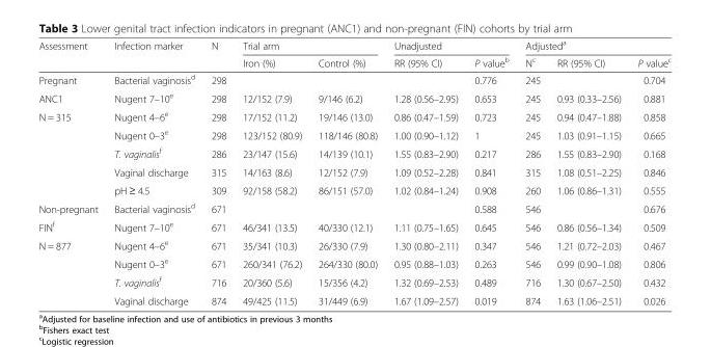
<table><thead><tr><td rowspan="2">Assessment</td><td rowspan="2">Infection marker</td><td rowspan="2">N</td><td colspan="2">Trial arm</td><td colspan="2">Unadjusted</td><td colspan="3">Adjusted<sup>a</sup></td></tr><tr><td>Iron (%)</td><td>Control (%)</td><td>RR (95% CI)</td><td>P value<sup>b</sup></td><td>N<sup>c</sup></td><td>RR (95% CI)</td><td>P value<sup>c</sup></td></tr></thead><tbody><tr><td>Pregnant</td><td>Bacterial vaginosis<sup>d</sup></td><td>298</td><td></td><td></td><td></td><td>0.776</td><td>245</td><td></td><td>0.704</td></tr><tr><td>ANC1</td><td>Nugent 7–10<sup>e</sup></td><td>298</td><td>12/152 (7.9)</td><td>9/146 (6.2)</td><td>1.28 (0.56–2.95)</td><td>0.653</td><td>245</td><td>0.93 (0.33–2.56)</td><td>0.881</td></tr><tr><td rowspan="5">N = 315</td><td>Nugent 4–6<sup>e</sup></td><td>298</td><td>17/152 (11.2)</td><td>19/146 (13.0)</td><td>0.86 (0.47–1.59)</td><td>0.723</td><td>245</td><td>0.94 (0.47–1.88)</td><td>0.858</td></tr><tr><td>Nugent 0–3<sup>e</sup></td><td>298</td><td>123/152 (80.9)</td><td>118/146 (80.8)</td><td>1.00 (0.90–1.12)</td><td>1</td><td>245</td><td>1.03 (0.91–1.15)</td><td>0.665</td></tr><tr><td>T. vaginalis<sup>f</sup></td><td>286</td><td>23/147 (15.6)</td><td>14/139 (10.1)</td><td>1.55 (0.83–2.90)</td><td>0.217</td><td>286</td><td>1.55 (0.83–2.90)</td><td>0.168</td></tr><tr><td>Vaginal discharge</td><td>315</td><td>14/163 (8.6)</td><td>12/152 (7.9)</td><td>1.09 (0.52–2.28)</td><td>0.841</td><td>315</td><td>1.08 (0.51–2.25)</td><td>0.846</td></tr><tr><td>pH ≥ 4.5</td><td>309</td><td>92/158 (58.2)</td><td>86/151 (57.0)</td><td>1.02 (0.84–1.24)</td><td>0.908</td><td>260</td><td>1.06 (0.86–1.31)</td><td>0.555</td></tr><tr><td>Non-pregnant</td><td>Bacterial vaginosis<sup>d</sup></td><td>671</td><td></td><td></td><td></td><td>0.588</td><td>546</td><td></td><td>0.676</td></tr><tr><td>FIN<sup>f</sup></td><td>Nugent 7–10<sup>e</sup></td><td>671</td><td>46/341 (13.5)</td><td>40/330 (12.1)</td><td>1.11 (0.75–1.65)</td><td>0.645</td><td>546</td><td>0.86 (0.56–1.34)</td><td>0.509</td></tr><tr><td rowspan="4">N = 877</td><td>Nugent 4–6<sup>e</sup></td><td>671</td><td>35/341 (10.3)</td><td>26/330 (7.9)</td><td>1.30 (0.80–2.11)</td><td>0.347</td><td>546</td><td>1.21 (0.72–2.03)</td><td>0.467</td></tr><tr><td>Nugent 0–3<sup>e</sup></td><td>671</td><td>260/341 (76.2)</td><td>264/330 (80.0)</td><td>0.95 (0.88–1.03)</td><td>0.263</td><td>546</td><td>0.99 (0.90–1.08)</td><td>0.806</td></tr><tr><td>T. vaginalis<sup>f</sup></td><td>716</td><td>20/360 (5.6)</td><td>15/356 (4.2)</td><td>1.32 (0.69–2.53)</td><td>0.489</td><td>716</td><td>1.30 (0.67–2.50)</td><td>0.432</td></tr><tr><td>Vaginal discharge</td><td>874</td><td>49/425 (11.5)</td><td>31/449 (6.9)</td><td>1.67 (1.09–2.57)</td><td>0.019</td><td>874</td><td>1.63 (1.06–2.51)</td><td>0.026</td></tr></tbody></table>